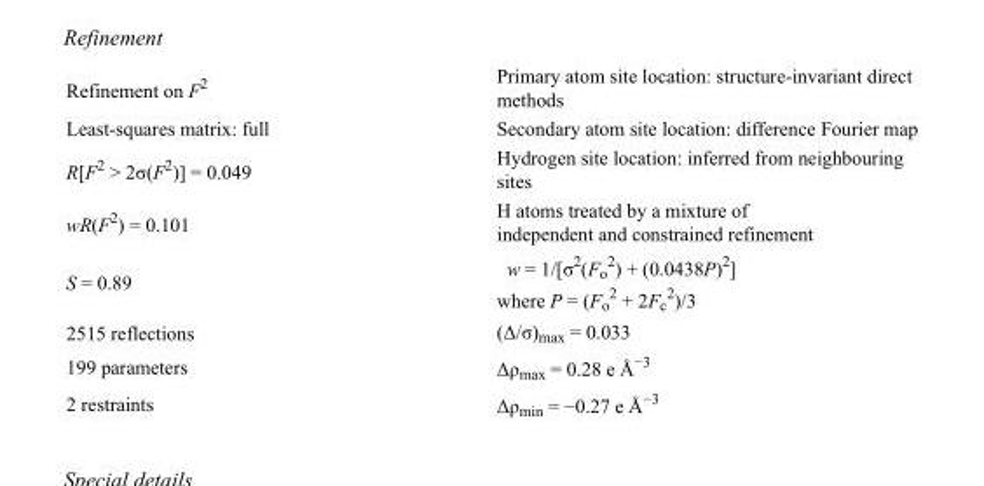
<table><tbody><tr><td>Refinement on F<sup>2</sup></td><td>Primary atom site location: structure-invariant direct methods</td></tr><tr><td>Least-squares matrix: full</td><td>Secondary atom site location: difference Fourier map</td></tr><tr><td>R[F<sup>2</sup> &gt; 2σ(F<sup>2</sup>)] = 0.049</td><td>Hydrogen site location: inferred from neighbouring sites</td></tr><tr><td>wR(F<sup>2</sup>) = 0.101</td><td>H atoms treated by a mixture of independent and constrained refinement</td></tr><tr><td>S = 0.89</td><td>w = 1/[σ<sup>2</sup>(F<sub>o</sub> <sup>2</sup>) + (0.0438P)<sup>2</sup>] where P = (F<sub>o</sub> <sup>2</sup> + 2F<sub>c</sub> <sup>2</sup>)/3</td></tr><tr><td>2515 reflections</td><td>(Δ/σ)<sub>max</sub> = 0.033</td></tr><tr><td>199 parameters</td><td>Δρ<sub>max</sub> = 0.28 e Å<sup>−3</sup></td></tr><tr><td>2 restraints</td><td>Δρ<sub>min</sub> = −0.27 e Å<sup>−3</sup></td></tr></tbody></table>